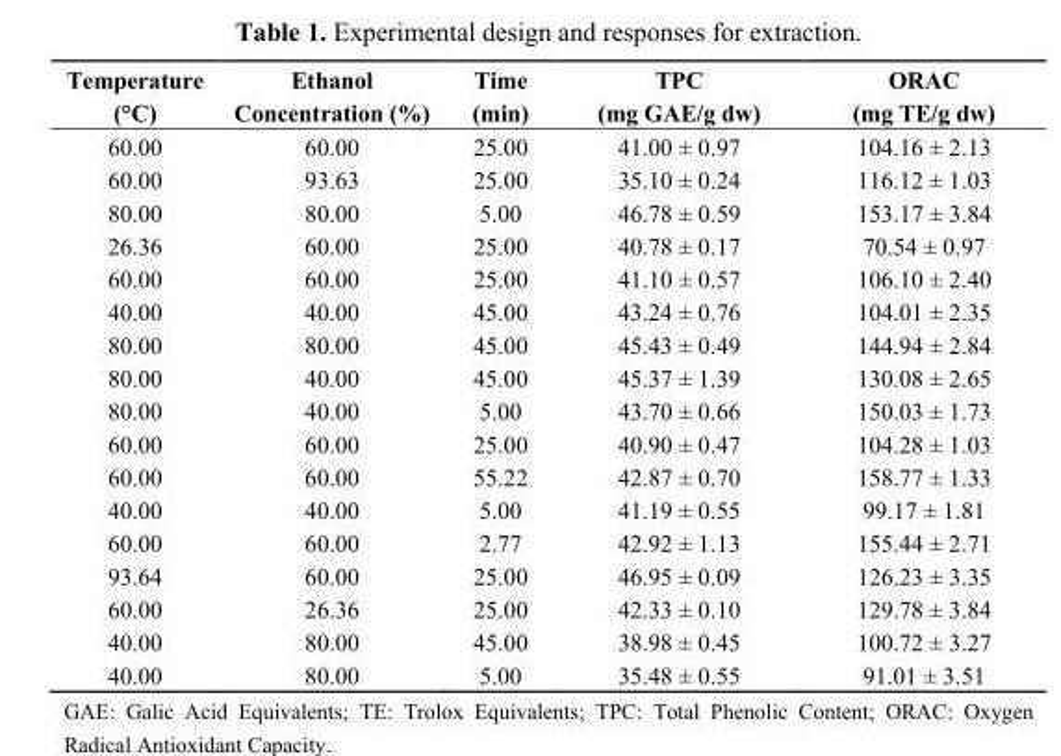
<table><thead><tr><td>Temperature (°C)</td><td>Ethanol Concentration (%)</td><td>Time (min)</td><td>TPC (mg GAE/g dw)</td><td>ORAC (mg TE/g dw)</td></tr></thead><tbody><tr><td>60.00</td><td>60.00</td><td>25.00</td><td>41.00 ± 0.97</td><td>104.16 ± 2.13</td></tr><tr><td>60.00</td><td>93.63</td><td>25.00</td><td>35.10 ± 0.24</td><td>116.12 ± 1.03</td></tr><tr><td>80.00</td><td>80.00</td><td>5.00</td><td>46.78 ± 0.59</td><td>153.17 ± 3.84</td></tr><tr><td>26.36</td><td>60.00</td><td>25.00</td><td>40.78 ± 0.17</td><td>70.54 ± 0.97</td></tr><tr><td>60.00</td><td>60.00</td><td>25.00</td><td>41.10 ± 0.57</td><td>106.10 ± 2.40</td></tr><tr><td>40.00</td><td>40.00</td><td>45.00</td><td>43.24 ± 0.76</td><td>104.01 ± 2.35</td></tr><tr><td>80.00</td><td>80.00</td><td>45.00</td><td>45.43 ± 0.49</td><td>144.94 ± 2.84</td></tr><tr><td>80.00</td><td>40.00</td><td>45.00</td><td>45.37 ± 1.39</td><td>130.08 ± 2.65</td></tr><tr><td>80.00</td><td>40.00</td><td>5.00</td><td>43.70 ± 0.66</td><td>150.03 ± 1.73</td></tr><tr><td>60.00</td><td>60.00</td><td>25.00</td><td>40.90 ± 0.47</td><td>104.28 ± 1.03</td></tr><tr><td>60.00</td><td>60.00</td><td>55.22</td><td>42.87 ± 0.70</td><td>158.77 ± 1.33</td></tr><tr><td>40.00</td><td>40.00</td><td>5.00</td><td>41.19 ± 0.55</td><td>99.17 ± 1.81</td></tr><tr><td>60.00</td><td>60.00</td><td>2.77</td><td>42.92 ± 1.13</td><td>155.44 ± 2.71</td></tr><tr><td>93.64</td><td>60.00</td><td>25.00</td><td>46.95 ± 0.09</td><td>126.23 ± 3.35</td></tr><tr><td>60.00</td><td>26.36</td><td>25.00</td><td>42.33 ± 0.10</td><td>129.78 ± 3.84</td></tr><tr><td>40.00</td><td>80.00</td><td>45.00</td><td>38.98 ± 0.45</td><td>100.72 ± 3.27</td></tr><tr><td>40.00</td><td>80.00</td><td>5.00</td><td>35.48 ± 0.55</td><td>91.01 ± 3.51</td></tr></tbody></table>